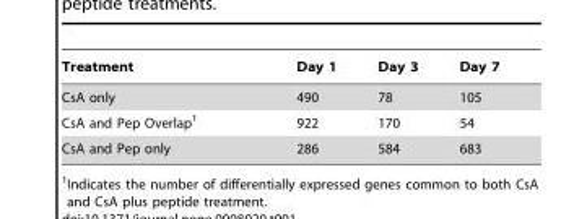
<table><thead><tr><td>Treatment</td><td>Day 1</td><td>Day 3</td><td>Day 7</td></tr></thead><tbody><tr><td>CsA only</td><td>490</td><td>78</td><td>105</td></tr><tr><td>CsA and Pep Overlap<sup>1</sup></td><td>922</td><td>170</td><td>54</td></tr><tr><td>CsA and Pep only</td><td>286</td><td>584</td><td>683</td></tr></tbody></table>